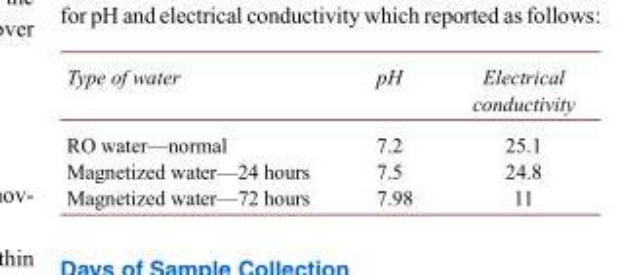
<table><tbody><tr><td>Type of water</td><td>pH</td><td>Electrical conductivity</td></tr><tr><td>RO water—normal</td><td>7.2</td><td>25.1</td></tr><tr><td>Magnetized water—24 hours</td><td>7.5</td><td>24.8</td></tr><tr><td>Magnetized water—72 hours</td><td>7.98</td><td>11</td></tr></tbody></table>